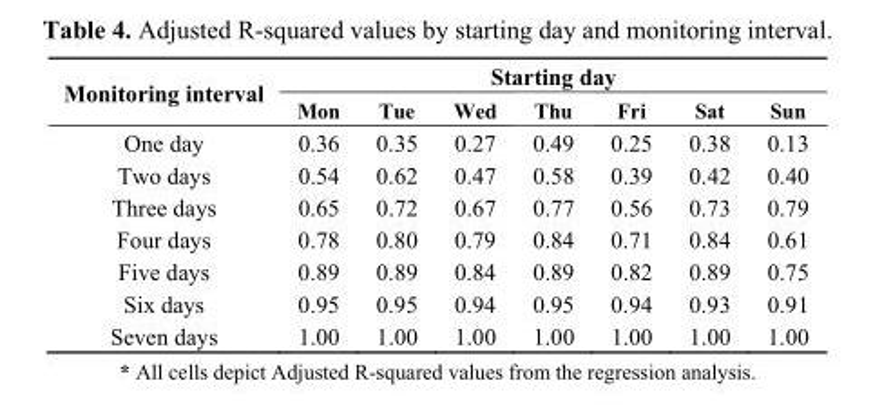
<table><thead><tr><td rowspan="2">Monitoring interval</td><td colspan="7">Starting day</td></tr><tr><td>Mon</td><td>Tue</td><td>Wed</td><td>Thu</td><td>Fri</td><td>Sat</td><td>Sun</td></tr></thead><tbody><tr><td>One day</td><td>0.36</td><td>0.35</td><td>0.27</td><td>0.49</td><td>0.25</td><td>0.38</td><td>0.13</td></tr><tr><td>Two days</td><td>0.54</td><td>0.62</td><td>0.47</td><td>0.58</td><td>0.39</td><td>0.42</td><td>0.40</td></tr><tr><td>Three days</td><td>0.65</td><td>0.72</td><td>0.67</td><td>0.77</td><td>0.56</td><td>0.73</td><td>0.79</td></tr><tr><td>Four days</td><td>0.78</td><td>0.80</td><td>0.79</td><td>0.84</td><td>0.71</td><td>0.84</td><td>0.61</td></tr><tr><td>Five days</td><td>0.89</td><td>0.89</td><td>0.84</td><td>0.89</td><td>0.82</td><td>0.89</td><td>0.75</td></tr><tr><td>Six days</td><td>0.95</td><td>0.95</td><td>0.94</td><td>0.95</td><td>0.94</td><td>0.93</td><td>0.91</td></tr><tr><td>Seven days</td><td>1.00</td><td>1.00</td><td>1.00</td><td>1.00</td><td>1.00</td><td>1.00</td><td>1.00</td></tr></tbody></table>